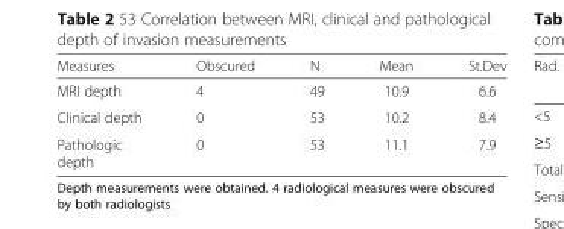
<table><thead><tr><td>Measures</td><td>Obscured</td><td>N</td><td>Mean</td><td>St.Dev</td></tr></thead><tbody><tr><td>MRI depth</td><td>4</td><td>49</td><td>10.9</td><td>6.6</td></tr><tr><td>Clinical depth</td><td>0</td><td>53</td><td>10.2</td><td>8.4</td></tr><tr><td>Pathologic depth</td><td>0</td><td>53</td><td>11.1</td><td>7.9</td></tr></tbody></table>